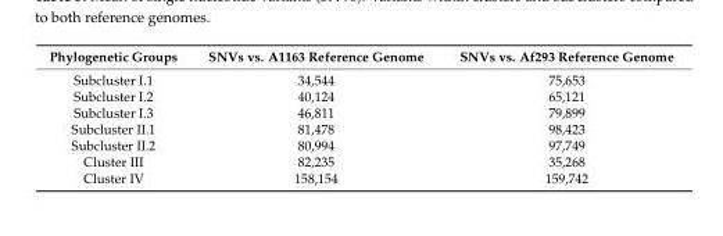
<table><thead><tr><td>Phylogenetic Groups</td><td>SNVs vs. A1163 Reference Genome</td><td>SNVs vs. Af293 Reference Genome</td></tr></thead><tbody><tr><td>Subcluster I.1</td><td>34,544</td><td>75,653</td></tr><tr><td>Subcluster I.2</td><td>40,124</td><td>65,121</td></tr><tr><td>Subcluster I.3</td><td>46,811</td><td>79,899</td></tr><tr><td>Subcluster II.1</td><td>81,478</td><td>98,423</td></tr><tr><td>Subcluster II.2</td><td>80,994</td><td>97,749</td></tr><tr><td>Cluster III</td><td>82,235</td><td>35,268</td></tr><tr><td>Cluster IV</td><td>158,154</td><td>159,742</td></tr></tbody></table>